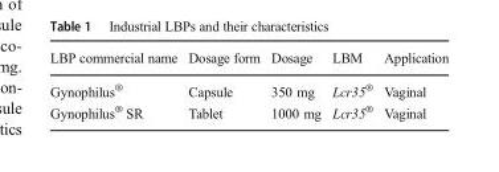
<table><thead><tr><td>LBP commercial name</td><td>Dosage form</td><td>Dosage</td><td>LBM</td><td>Application</td></tr></thead><tbody><tr><td>Gynophilus<sup>®</sup></td><td>Capsule</td><td>350 mg</td><td>Lcr35<sup>®</sup></td><td>Vaginal</td></tr><tr><td>Gynophilus<sup>®</sup> SR</td><td>Tablet</td><td>1000 mg</td><td>Lcr35<sup>®</sup></td><td>Vaginal</td></tr></tbody></table>